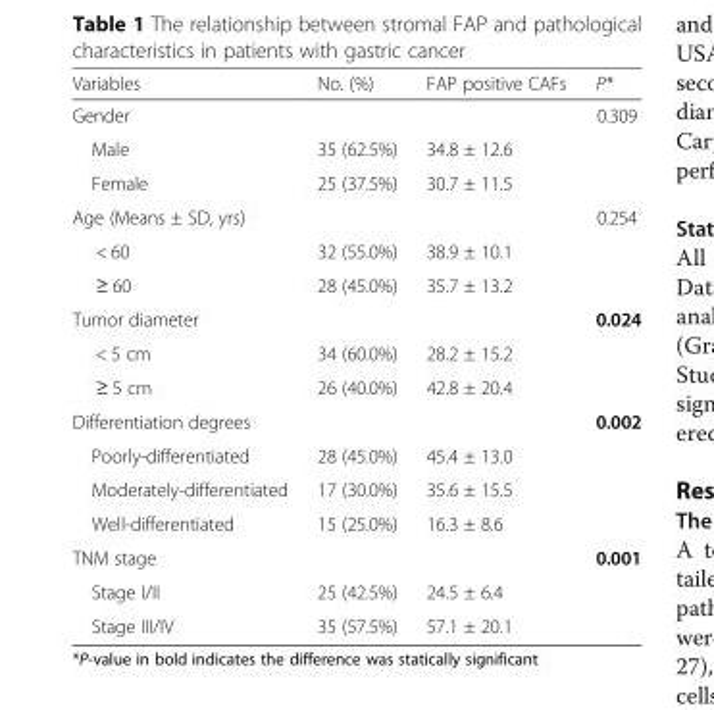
<table><thead><tr><td>Variables</td><td>No. (%)</td><td>FAP positive CAFs</td><td>P*</td></tr></thead><tbody><tr><td>Gender</td><td></td><td></td><td>0.309</td></tr><tr><td>Male</td><td>35 (62.5%)</td><td>34.8 ± 12.6</td><td></td></tr><tr><td>Female</td><td>25 (37.5%)</td><td>30.7 ± 11.5</td><td></td></tr><tr><td>Age (Means ± SD, yrs)</td><td></td><td></td><td>0.254</td></tr><tr><td>&lt; 60</td><td>32 (55.0%)</td><td>38.9 ± 10.1</td><td></td></tr><tr><td>≥ 60</td><td>28 (45.0%)</td><td>35.7 ± 13.2</td><td></td></tr><tr><td>Tumor diameter</td><td></td><td></td><td>0.024</td></tr><tr><td>&lt; 5 cm</td><td>34 (60.0%)</td><td>28.2 ± 15.2</td><td></td></tr><tr><td>≥ 5 cm</td><td>26 (40.0%)</td><td>42.8 ± 20.4</td><td></td></tr><tr><td>Differentiation degrees</td><td></td><td></td><td>0.002</td></tr><tr><td>Poorly-differentiated</td><td>28 (45.0%)</td><td>45.4 ± 13.0</td><td></td></tr><tr><td>Moderately-differentiated</td><td>17 (30.0%)</td><td>35.6 ± 15.5</td><td></td></tr><tr><td>Well-differentiated</td><td>15 (25.0%)</td><td>16.3 ± 8.6</td><td></td></tr><tr><td>TNM stage</td><td></td><td></td><td>0.001</td></tr><tr><td>Stage I/II</td><td>25 (42.5%)</td><td>24.5 ± 6.4</td><td></td></tr><tr><td>Stage III/IV</td><td>35 (57.5%)</td><td>57.1 ± 20.1</td><td></td></tr></tbody></table>